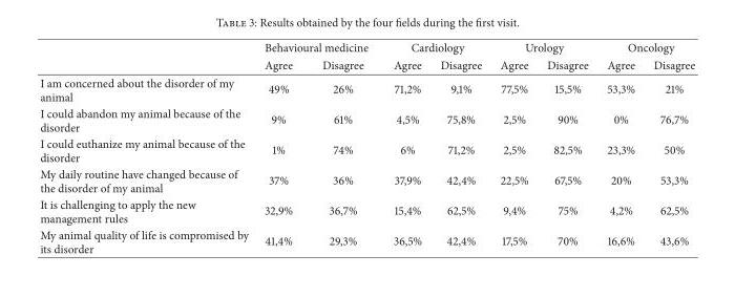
<table><thead><tr><td rowspan="2"></td><td colspan="2">Behavioural medicine</td><td colspan="2">Cardiology</td><td colspan="2">Urology</td><td colspan="2">Oncology</td></tr><tr><td>Agree</td><td>Disagree</td><td>Agree</td><td>Disagree</td><td>Agree</td><td>Disagree</td><td>Agree</td><td>Disagree</td></tr></thead><tbody><tr><td>I am concerned about the disorder of my animal</td><td>49%</td><td>26%</td><td>71,2%</td><td>9,1%</td><td>77,5%</td><td>15,5%</td><td>53,3%</td><td>21%</td></tr><tr><td>I could abandon my animal because of the disorder</td><td>9%</td><td>61%</td><td>4,5%</td><td>75,8%</td><td>2,5%</td><td>90%</td><td>0%</td><td>76,7%</td></tr><tr><td>I could euthanize my animal because of the disorder</td><td>1%</td><td>74%</td><td>6%</td><td>71,2%</td><td>2,5%</td><td>82,5%</td><td>23,3%</td><td>50%</td></tr><tr><td>My daily routine have changed because of the disorder of my animal</td><td>37%</td><td>36%</td><td>37,9%</td><td>42,4%</td><td>22,5%</td><td>67,5%</td><td>20%</td><td>53,3%</td></tr><tr><td>It is challenging to apply the new management rules</td><td>32,9%</td><td>36,7%</td><td>15,4%</td><td>62,5%</td><td>9,4%</td><td>75%</td><td>4,2%</td><td>62,5%</td></tr><tr><td>My animal quality of life is compromised by its disorder</td><td>41,4%</td><td>29,3%</td><td>36,5%</td><td>42,4%</td><td>17,5%</td><td>70%</td><td>16,6%</td><td>43,6%</td></tr></tbody></table>